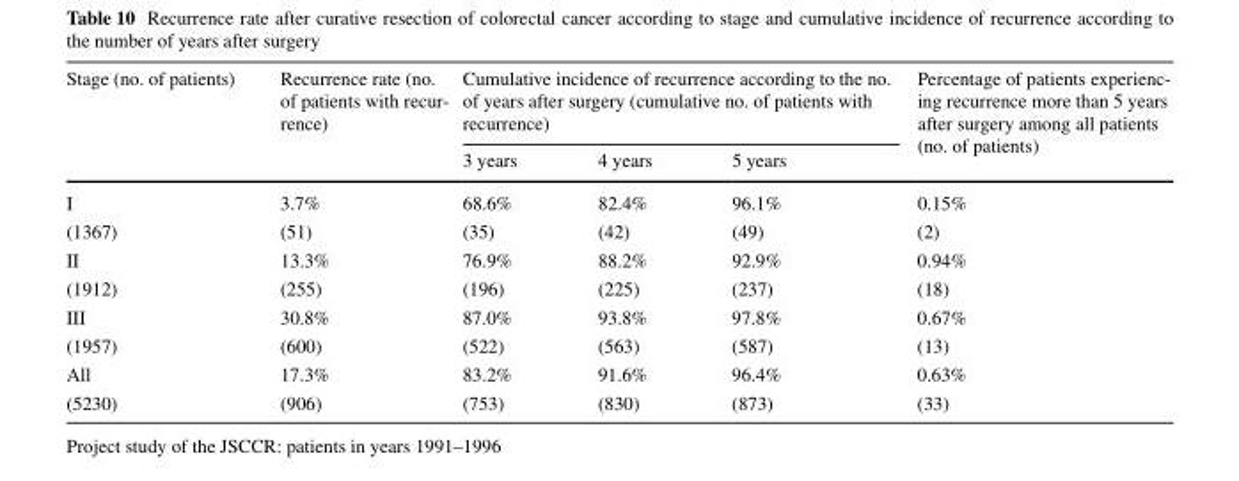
<table><thead><tr><td rowspan="2">Stage (no. of patients)</td><td rowspan="2">Recurrence rate (no. of patients with recur- rence)</td><td colspan="3">Cumulative incidence of recurrence according to the no. of years after surgery (cumulative no. of patients with recurrence)</td><td rowspan="2">Percentage of patients experienc- ing recurrence more than 5 years after surgery among all patients (no. of patients)</td></tr><tr><td>3 years</td><td>4 years</td><td>5 years</td></tr></thead><tbody><tr><td>I</td><td>3.7%</td><td>68.6%</td><td>82.4%</td><td>96.1%</td><td>0.15%</td></tr><tr><td>(1367)</td><td>(51)</td><td>(35)</td><td>(42)</td><td>(49)</td><td>(2)</td></tr><tr><td>II</td><td>13.3%</td><td>76.9%</td><td>88.2%</td><td>92.9%</td><td>0.94%</td></tr><tr><td>(1912)</td><td>(255)</td><td>(196)</td><td>(225)</td><td>(237)</td><td>(18)</td></tr><tr><td>III</td><td>30.8%</td><td>87.0%</td><td>93.8%</td><td>97.8%</td><td>0.67%</td></tr><tr><td>(1957)</td><td>(600)</td><td>(522)</td><td>(563)</td><td>(587)</td><td>(13)</td></tr><tr><td>All</td><td>17.3%</td><td>83.2%</td><td>91.6%</td><td>96.4%</td><td>0.63%</td></tr><tr><td>(5230)</td><td>(906)</td><td>(753)</td><td>(830)</td><td>(873)</td><td>(33)</td></tr></tbody></table>